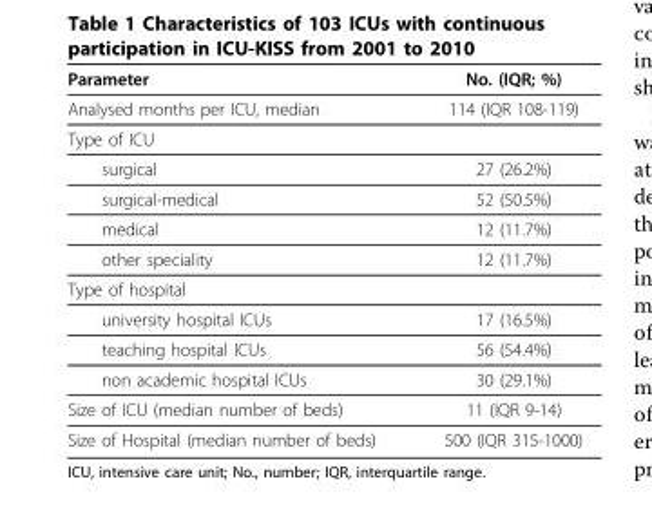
<table><thead><tr><td>Parameter</td><td>No. (IQR; %)</td></tr></thead><tbody><tr><td>Analysed months per ICU, median</td><td>114 (IQR 108-119)</td></tr><tr><td colspan="2">Type of ICU</td></tr><tr><td>surgical</td><td>27 (26.2%)</td></tr><tr><td>surgical-medical</td><td>52 (50.5%)</td></tr><tr><td>medical</td><td>12 (11.7%)</td></tr><tr><td>other speciality</td><td>12 (11.7%)</td></tr><tr><td colspan="2">Type of hospital</td></tr><tr><td>university hospital ICUs</td><td>17 (16.5%)</td></tr><tr><td>teaching hospital ICUs</td><td>56 (54.4%)</td></tr><tr><td>non academic hospital ICUs</td><td>30 (29.1%)</td></tr><tr><td>Size of ICU (median number of beds)</td><td>11 (IQR 9-14)</td></tr><tr><td>Size of Hospital (median number of beds)</td><td>500 (IQR 315-1000)</td></tr></tbody></table>